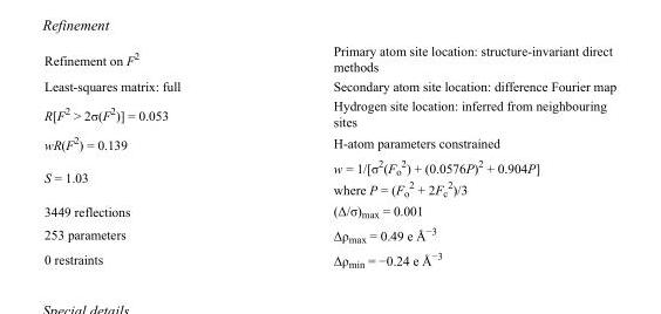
<table><tbody><tr><td>Refinement on F<sup>2</sup></td><td>Primary atom site location: structure-invariant direct methods</td></tr><tr><td>Least-squares matrix: full</td><td>Secondary atom site location: difference Fourier map</td></tr><tr><td>R[F<sup>2</sup> &gt; 2σ(F<sup>2</sup>)] = 0.053</td><td>Hydrogen site location: inferred from neighbouring sites</td></tr><tr><td>wR(F<sup>2</sup>) = 0.139</td><td>H-atom parameters constrained</td></tr><tr><td>S = 1.03</td><td>w = 1/[σ<sup>2</sup>(F<sub>o</sub> <sup>2</sup>) + (0.0576P)<sup>2</sup> + 0.904P] where P = (F<sub>o</sub> <sup>2</sup> + 2F<sub>c</sub> <sup>2</sup>)/3</td></tr><tr><td>3449 reflections</td><td>(Δ/σ)<sub>max</sub> = 0.001</td></tr><tr><td>253 parameters</td><td>Δρ<sub>max</sub> = 0.49 e Å<sup>−3</sup></td></tr><tr><td>0 restraints</td><td>Δρ<sub>min</sub> = −0.24 e Å<sup>−3</sup></td></tr></tbody></table>